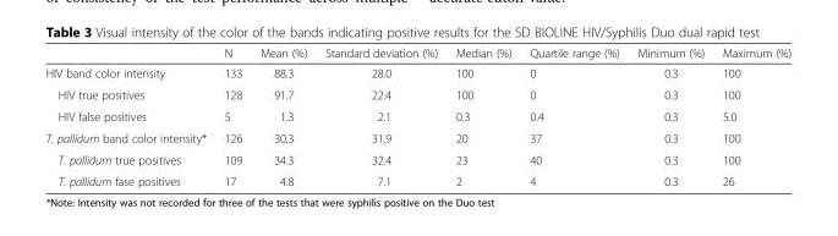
<table><thead><tr><td></td><td>N</td><td>Mean (%)</td><td>Standard deviation (%)</td><td>Median (%)</td><td>Quartile range (%)</td><td>Minimum (%)</td><td>Maximum (%)</td></tr></thead><tbody><tr><td>HIV band color intensity</td><td>133</td><td>88.3</td><td>28.0</td><td>100</td><td>0</td><td>0.3</td><td>100</td></tr><tr><td>HIV true positives</td><td>128</td><td>91.7</td><td>22.4</td><td>100</td><td>0</td><td>0.3</td><td>100</td></tr><tr><td>HIV false positives</td><td>5</td><td>1.3</td><td>2.1</td><td>0.3</td><td>0.4</td><td>0.3</td><td>5.0</td></tr><tr><td>T. pallidum band color intensity*</td><td>126</td><td>30.3</td><td>31.9</td><td>20</td><td>37</td><td>0.3</td><td>100</td></tr><tr><td>T. pallidum true positives</td><td>109</td><td>34.3</td><td>32.4</td><td>23</td><td>40</td><td>0.3</td><td>100</td></tr><tr><td>T. pallidum fase positives</td><td>17</td><td>4.8</td><td>7.1</td><td>2</td><td>4</td><td>0.3</td><td>26</td></tr></tbody></table>